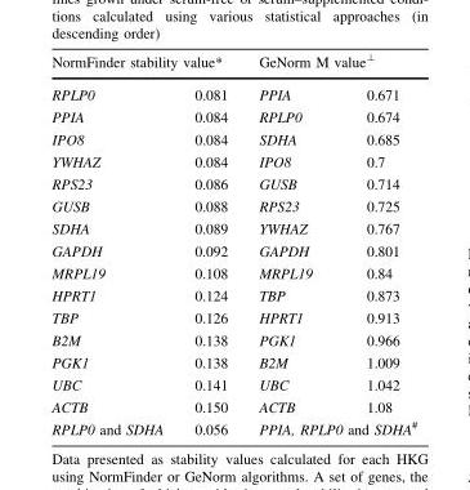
<table><thead><tr><td colspan="2">NormFinder stability value*</td><td colspan="2">GeNorm M value<sup>⊥</sup></td></tr><tr><td>RPLP0</td><td>0.081</td><td>PPIA</td><td>0.671</td></tr></thead><tbody><tr><td>PPIA</td><td>0.084</td><td>RPLP0</td><td>0.674</td></tr><tr><td>IPO8</td><td>0.084</td><td>SDHA</td><td>0.685</td></tr><tr><td>YWHAZ</td><td>0.084</td><td>IPO8</td><td>0.7</td></tr><tr><td>RPS23</td><td>0.086</td><td>GUSB</td><td>0.714</td></tr><tr><td>GUSB</td><td>0.088</td><td>RPS23</td><td>0.725</td></tr><tr><td>SDHA</td><td>0.089</td><td>YWHAZ</td><td>0.767</td></tr><tr><td>GAPDH</td><td>0.092</td><td>GAPDH</td><td>0.801</td></tr><tr><td>MRPL19</td><td>0.108</td><td>MRPL19</td><td>0.84</td></tr><tr><td>HPRT1</td><td>0.124</td><td>TBP</td><td>0.873</td></tr><tr><td>TBP</td><td>0.126</td><td>HPRT1</td><td>0.913</td></tr><tr><td>B2M</td><td>0.138</td><td>PGK1</td><td>0.966</td></tr><tr><td>PGK1</td><td>0.138</td><td>B2M</td><td>1.009</td></tr><tr><td>UBC</td><td>0.141</td><td>UBC</td><td>1.042</td></tr><tr><td>ACTB</td><td>0.150</td><td>ACTB</td><td>1.08</td></tr><tr><td>RPLP0 and SDHA</td><td>0.056</td><td colspan="2">PPIA, RPLP0 and SDHA<sup>#</sup></td></tr></tbody></table>